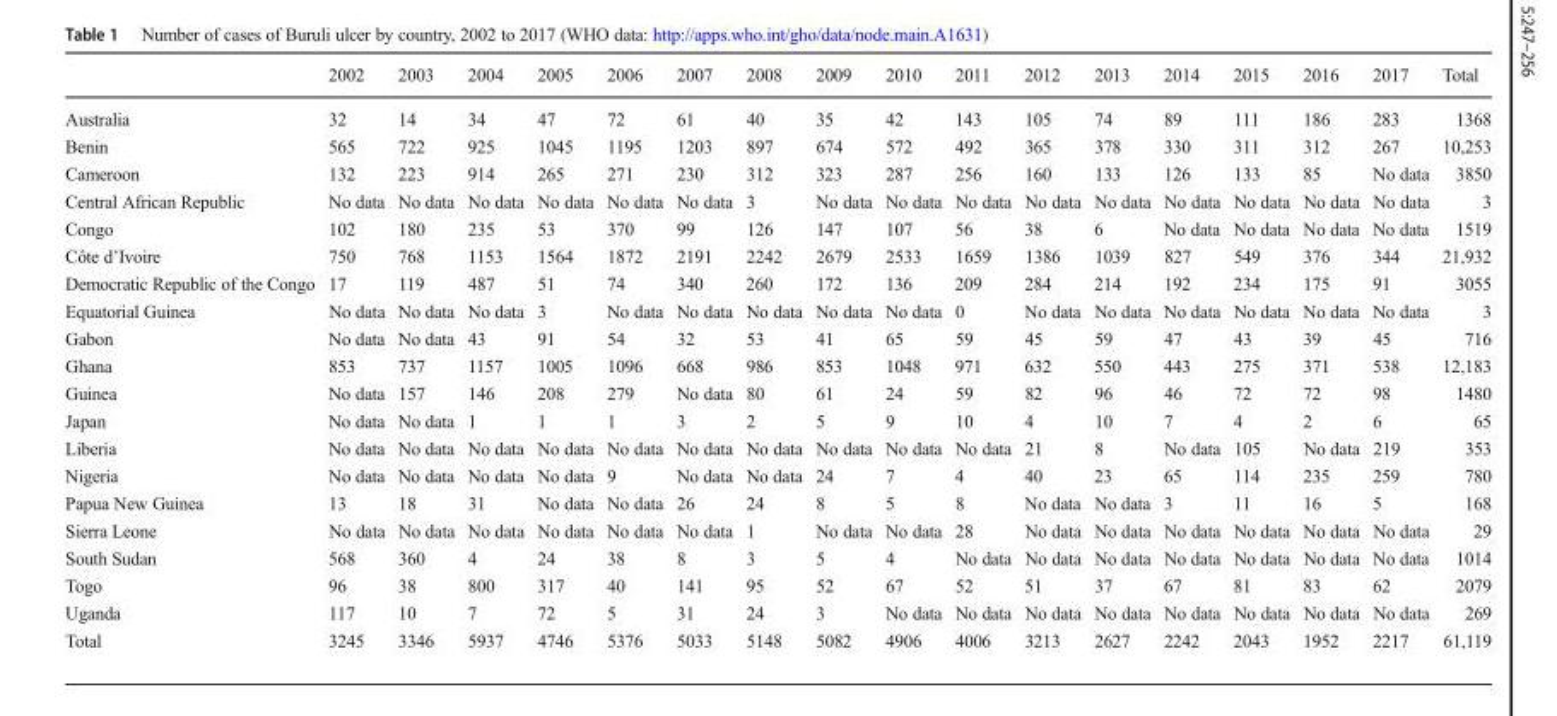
<table><thead><tr><td></td><td>2002</td><td>2003</td><td>2004</td><td>2005</td><td>2006</td><td>2007</td><td>2008</td><td>2009</td><td>2010</td><td>2011</td><td>2012</td><td>2013</td><td>2014</td><td>2015</td><td>2016</td><td>2017</td><td>Total</td></tr></thead><tbody><tr><td>Australia</td><td>32</td><td>14</td><td>34</td><td>47</td><td>72</td><td>61</td><td>40</td><td>35</td><td>42</td><td>143</td><td>105</td><td>74</td><td>89</td><td>111</td><td>186</td><td>283</td><td>1368</td></tr><tr><td>Benin</td><td>565</td><td>722</td><td>925</td><td>1045</td><td>1195</td><td>1203</td><td>897</td><td>674</td><td>572</td><td>492</td><td>365</td><td>378</td><td>330</td><td>311</td><td>312</td><td>267</td><td>10,253</td></tr><tr><td>Cameroon</td><td>132</td><td>223</td><td>914</td><td>265</td><td>271</td><td>230</td><td>312</td><td>323</td><td>287</td><td>256</td><td>160</td><td>133</td><td>126</td><td>133</td><td>85</td><td>No data</td><td>3850</td></tr><tr><td>Central African Republic</td><td>No data</td><td>No data</td><td>No data</td><td>No data</td><td>No data</td><td>No data</td><td>3</td><td>No data</td><td>No data</td><td>No data</td><td>No data</td><td>No data</td><td>No data</td><td>No data</td><td>No data</td><td>No data</td><td>3</td></tr><tr><td>Congo</td><td>102</td><td>180</td><td>235</td><td>53</td><td>370</td><td>99</td><td>126</td><td>147</td><td>107</td><td>56</td><td>38</td><td>6</td><td>No data</td><td>No data</td><td>No data</td><td>No data</td><td>1519</td></tr><tr><td>Côte d’Ivoire</td><td>750</td><td>768</td><td>1153</td><td>1564</td><td>1872</td><td>2191</td><td>2242</td><td>2679</td><td>2533</td><td>1659</td><td>1386</td><td>1039</td><td>827</td><td>549</td><td>376</td><td>344</td><td>21,932</td></tr><tr><td>Democratic Republic of the Congo</td><td>17</td><td>119</td><td>487</td><td>51</td><td>74</td><td>340</td><td>260</td><td>172</td><td>136</td><td>209</td><td>284</td><td>214</td><td>192</td><td>234</td><td>175</td><td>91</td><td>3055</td></tr><tr><td>Equatorial Guinea</td><td>No data</td><td>No data</td><td>No data</td><td>3</td><td>No data</td><td>No data</td><td>No data</td><td>No data</td><td>No data</td><td>0</td><td>No data</td><td>No data</td><td>No data</td><td>No data</td><td>No data</td><td>No data</td><td>3</td></tr><tr><td>Gabon</td><td>No data</td><td>No data</td><td>43</td><td>91</td><td>54</td><td>32</td><td>53</td><td>41</td><td>65</td><td>59</td><td>45</td><td>59</td><td>47</td><td>43</td><td>39</td><td>45</td><td>716</td></tr><tr><td>Ghana</td><td>853</td><td>737</td><td>1157</td><td>1005</td><td>1096</td><td>668</td><td>986</td><td>853</td><td>1048</td><td>971</td><td>632</td><td>550</td><td>443</td><td>275</td><td>371</td><td>538</td><td>12,183</td></tr><tr><td>Guinea</td><td>No data</td><td>157</td><td>146</td><td>208</td><td>279</td><td>No data</td><td>80</td><td>61</td><td>24</td><td>59</td><td>82</td><td>96</td><td>46</td><td>72</td><td>72</td><td>98</td><td>1480</td></tr><tr><td>Japan</td><td>No data</td><td>No data</td><td>1</td><td>1</td><td>1</td><td>3</td><td>2</td><td>5</td><td>9</td><td>10</td><td>4</td><td>10</td><td>7</td><td>4</td><td>2</td><td>6</td><td>65</td></tr><tr><td>Liberia</td><td>No data</td><td>No data</td><td>No data</td><td>No data</td><td>No data</td><td>No data</td><td>No data</td><td>No data</td><td>No data</td><td>No data</td><td>21</td><td>8</td><td>No data</td><td>105</td><td>No data</td><td>219</td><td>353</td></tr><tr><td>Nigeria</td><td>No data</td><td>No data</td><td>No data</td><td>No data</td><td>9</td><td>No data</td><td>No data</td><td>24</td><td>7</td><td>4</td><td>40</td><td>23</td><td>65</td><td>114</td><td>235</td><td>259</td><td>780</td></tr><tr><td>Papua New Guinea</td><td>13</td><td>18</td><td>31</td><td>No data</td><td>No data</td><td>26</td><td>24</td><td>8</td><td>5</td><td>8</td><td>No data</td><td>No data</td><td>3</td><td>11</td><td>16</td><td>5</td><td>168</td></tr><tr><td>Sierra Leone</td><td>No data</td><td>No data</td><td>No data</td><td>No data</td><td>No data</td><td>No data</td><td>1</td><td>No data</td><td>No data</td><td>28</td><td>No data</td><td>No data</td><td>No data</td><td>No data</td><td>No data</td><td>No data</td><td>29</td></tr><tr><td>South Sudan</td><td>568</td><td>360</td><td>4</td><td>24</td><td>38</td><td>8</td><td>3</td><td>5</td><td>4</td><td>No data</td><td>No data</td><td>No data</td><td>No data</td><td>No data</td><td>No data</td><td>No data</td><td>1014</td></tr><tr><td>Togo</td><td>96</td><td>38</td><td>800</td><td>317</td><td>40</td><td>141</td><td>95</td><td>52</td><td>67</td><td>52</td><td>51</td><td>37</td><td>67</td><td>81</td><td>83</td><td>62</td><td>2079</td></tr><tr><td>Uganda</td><td>117</td><td>10</td><td>7</td><td>72</td><td>5</td><td>31</td><td>24</td><td>3</td><td>No data</td><td>No data</td><td>No data</td><td>No data</td><td>No data</td><td>No data</td><td>No data</td><td>No data</td><td>269</td></tr><tr><td>Total</td><td>3245</td><td>3346</td><td>5937</td><td>4746</td><td>5376</td><td>5033</td><td>5148</td><td>5082</td><td>4906</td><td>4006</td><td>3213</td><td>2627</td><td>2242</td><td>2043</td><td>1952</td><td>2217</td><td>61,119</td></tr></tbody></table>